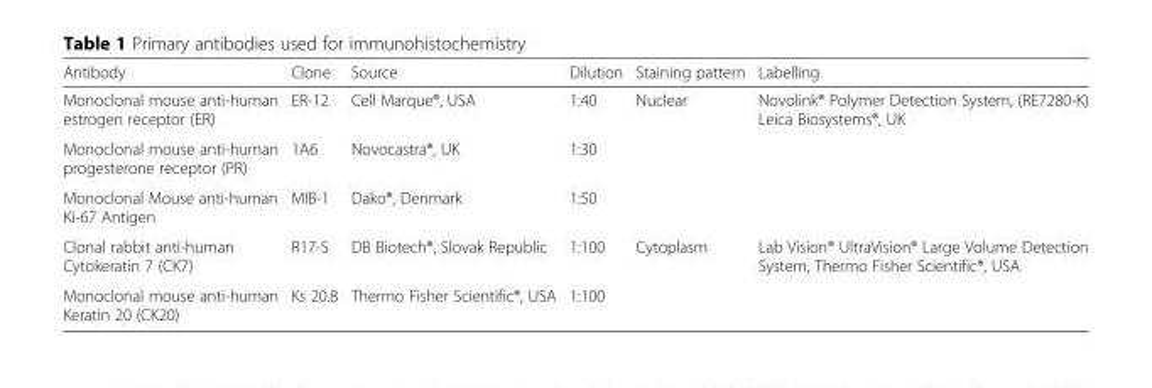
<table><thead><tr><td>Antibody</td><td>Clone</td><td>Source</td><td>Dilution</td><td>Staining pattern</td><td>Labelling</td></tr></thead><tbody><tr><td>Monoclonal mouse anti-human estrogen receptor (ER)</td><td>ER-12</td><td>Cell Marque®, USA</td><td>1:40</td><td rowspan="3">Nuclear</td><td rowspan="3">Novolink® Polymer Detection System, (RE7280-K) Leica Biosystems®, UK</td></tr><tr><td>Monoclonal mouse anti-human progesterone receptor (PR)</td><td>1A6</td><td>Novocastra®, UK</td><td>1:30</td></tr><tr><td>Monoclonal Mouse anti-human Ki-67 Antigen</td><td>MIB-1</td><td>Dako®, Denmark</td><td>1:50</td></tr><tr><td>Clonal rabbit anti-human Cytokeratin 7 (CK7)</td><td>R17-S</td><td>DB Biotech®, Slovak Republic</td><td>1:100</td><td rowspan="2">Cytoplasm</td><td rowspan="2">Lab Vision® UltraVision® Large Volume Detection System, Thermo Fisher Scientific®, USA</td></tr><tr><td>Monoclonal mouse anti-human Keratin 20 (CK20)</td><td>Ks 20.8</td><td>Thermo Fisher Scientific®, USA</td><td>1:100</td></tr></tbody></table>